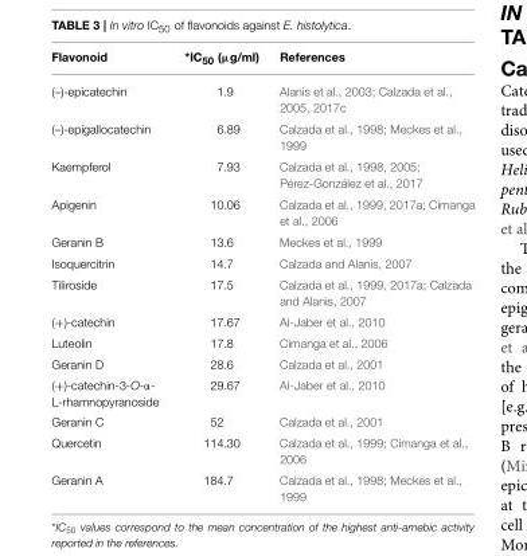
<table><thead><tr><td>Flavonoid</td><td>*IC<sub>50</sub> (µg/ml)</td><td>References</td></tr></thead><tbody><tr><td>(–)-epicatechin</td><td>1.9</td><td>Alanis et al., 2003; Calzada et al., 2005, 2017c</td></tr><tr><td>(–)-epigallocatechin</td><td>6.89</td><td>Calzada et al., 1998; Meckes et al., 1999</td></tr><tr><td>Kaempferol</td><td>7.93</td><td>Calzada et al., 1998, 2005; Pérez-González et al., 2017</td></tr><tr><td>Apigenin</td><td>10.06</td><td>Calzada et al., 1999, 2017a; Cimanga et al., 2006</td></tr><tr><td>Geranin B</td><td>13.6</td><td>Meckes et al., 1999</td></tr><tr><td>Isoquercitrin</td><td>14.7</td><td>Calzada and Alanis, 2007</td></tr><tr><td>Tiliroside</td><td>17.5</td><td>Calzada et al., 1999, 2017a; Calzada and Alanis, 2007</td></tr><tr><td>(+)-catechin</td><td>17.67</td><td>Al-Jaber et al., 2010</td></tr><tr><td>Luteolin</td><td>17.8</td><td>Cimanga et al., 2006</td></tr><tr><td>Geranin D</td><td>28.6</td><td>Calzada et al., 2001</td></tr><tr><td>(+)-catechin-3-O-α- L-rhamnopyranoside</td><td>29.67</td><td>Al-Jaber et al., 2010</td></tr><tr><td>Geranin C</td><td>52</td><td>Calzada et al., 2001</td></tr><tr><td>Quercetin</td><td>114.30</td><td>Calzada et al., 1999; Cimanga et al., 2006</td></tr><tr><td>Geranin A</td><td>184.7</td><td>Calzada et al., 1998; Meckes et al., 1999</td></tr></tbody></table>